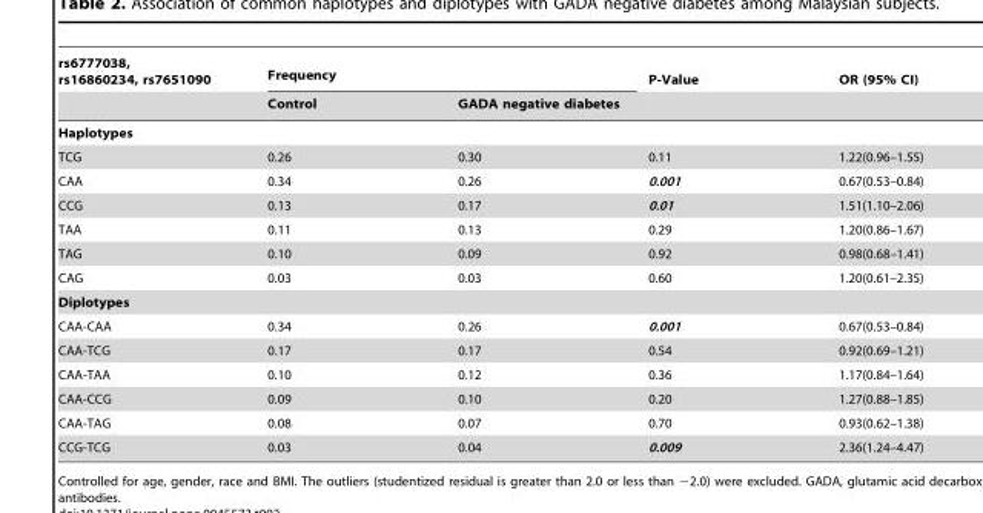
<table><thead><tr><td rowspan="2">rs6777038, rs16860234, rs7651090</td><td colspan="2">Frequency</td><td rowspan="2">P-Value</td><td rowspan="2">OR (95% CI)</td></tr><tr><td>Control</td><td>GADA negative diabetes</td></tr></thead><tbody><tr><td colspan="5">Haplotypes</td></tr><tr><td>TCG</td><td>0.26</td><td>0.30</td><td>0.11</td><td>1.22(0.96–1.55)</td></tr><tr><td>CAA</td><td>0.34</td><td>0.26</td><td>0.001</td><td>0.67(0.53–0.84)</td></tr><tr><td>CCG</td><td>0.13</td><td>0.17</td><td>0.01</td><td>1.51(1.10–2.06)</td></tr><tr><td>TAA</td><td>0.11</td><td>0.13</td><td>0.29</td><td>1.20(0.86–1.67)</td></tr><tr><td>TAG</td><td>0.10</td><td>0.09</td><td>0.92</td><td>0.98(0.68–1.41)</td></tr><tr><td>CAG</td><td>0.03</td><td>0.03</td><td>0.60</td><td>1.20(0.61–2.35)</td></tr><tr><td colspan="5">Diplotypes</td></tr><tr><td>CAA-CAA</td><td>0.34</td><td>0.26</td><td>0.001</td><td>0.67(0.53–0.84)</td></tr><tr><td>CAA-TCG</td><td>0.17</td><td>0.17</td><td>0.54</td><td>0.92(0.69–1.21)</td></tr><tr><td>CAA-TAA</td><td>0.10</td><td>0.12</td><td>0.36</td><td>1.17(0.84–1.64)</td></tr><tr><td>CAA-CCG</td><td>0.09</td><td>0.10</td><td>0.20</td><td>1.27(0.88–1.85)</td></tr><tr><td>CAA-TAG</td><td>0.08</td><td>0.07</td><td>0.70</td><td>0.93(0.62–1.38)</td></tr><tr><td>CCG-TCG</td><td>0.03</td><td>0.04</td><td>0.009</td><td>2.36(1.24–4.47)</td></tr></tbody></table>